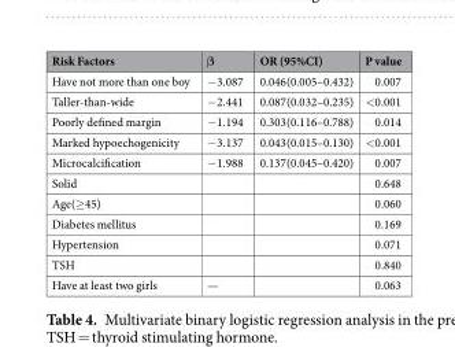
<table><thead><tr><td>Risk Factors</td><td>β</td><td>OR (95%CI)</td><td>P value</td></tr></thead><tbody><tr><td>Have not more than one boy</td><td>−3.087</td><td>0.046(0.005–0.432)</td><td>0.007</td></tr><tr><td>Taller-than-wide</td><td>−2.441</td><td>0.087(0.032–0.235)</td><td>&lt;0.001</td></tr><tr><td>Poorly defined margin</td><td>−1.194</td><td>0.303(0.116–0.788)</td><td>0.014</td></tr><tr><td>Marked hypoechogenicity</td><td>−3.137</td><td>0.043(0.015–0.130)</td><td>&lt;0.001</td></tr><tr><td>Microcalcification</td><td>−1.988</td><td>0.137(0.045–0.420)</td><td>0.007</td></tr><tr><td>Solid</td><td></td><td></td><td>0.648</td></tr><tr><td>Age(≥45)</td><td></td><td></td><td>0.060</td></tr><tr><td>Diabetes mellitus</td><td></td><td></td><td>0.169</td></tr><tr><td>Hypertension</td><td></td><td></td><td>0.071</td></tr><tr><td>TSH</td><td></td><td></td><td>0.840</td></tr><tr><td>Have at least two girls</td><td>—</td><td></td><td>0.063</td></tr></tbody></table>